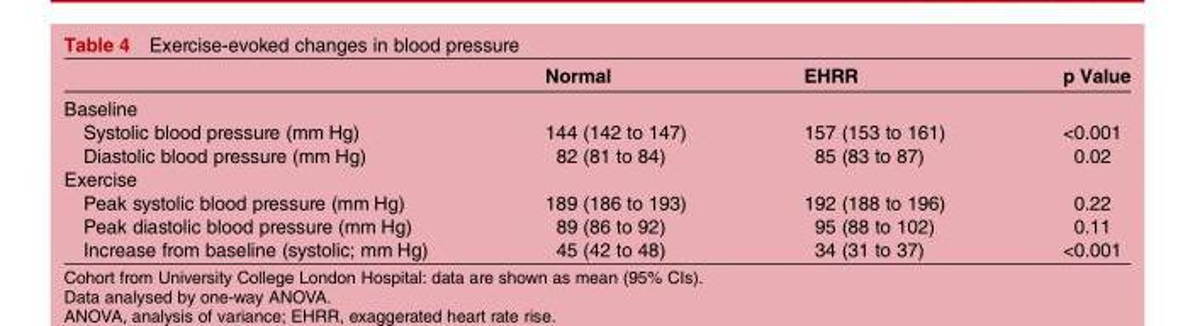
<table><thead><tr><td></td><td>Normal</td><td>EHRR</td><td>p Value</td></tr></thead><tbody><tr><td colspan="4">Baseline</td></tr><tr><td>Systolic blood pressure (mm Hg)</td><td>144 (142 to 147)</td><td>157 (153 to 161)</td><td>&lt;0.001</td></tr><tr><td>Diastolic blood pressure (mm Hg)</td><td>82 (81 to 84)</td><td>85 (83 to 87)</td><td>0.02</td></tr><tr><td colspan="4">Exercise</td></tr><tr><td>Peak systolic blood pressure (mm Hg)</td><td>189 (186 to 193)</td><td>192 (188 to 196)</td><td>0.22</td></tr><tr><td>Peak diastolic blood pressure (mm Hg)</td><td>89 (86 to 92)</td><td>95 (88 to 102)</td><td>0.11</td></tr><tr><td>Increase from baseline (systolic; mm Hg)</td><td>45 (42 to 48)</td><td>34 (31 to 37)</td><td>&lt;0.001</td></tr></tbody></table>